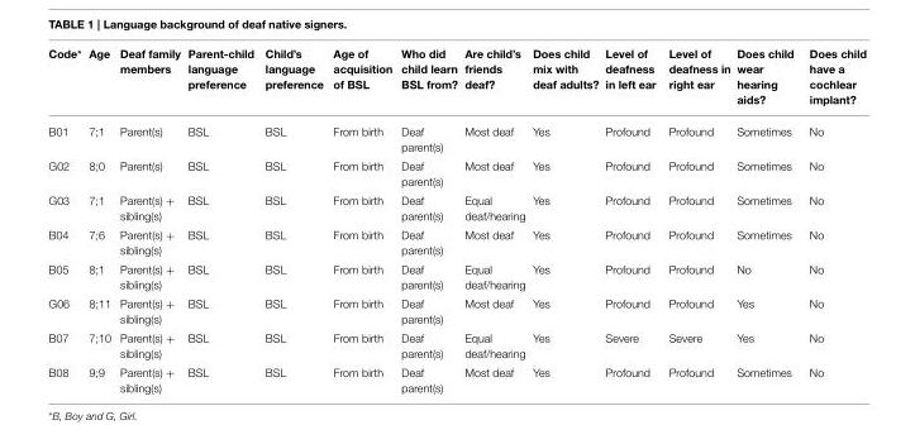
<table><thead><tr><td>Code*</td><td>Age</td><td>Deaf family members</td><td>Parent-child language preference</td><td>Child’s language preference</td><td>Age of acquisition of BSL</td><td>Who did child learn BSL from?</td><td>Are child’s friends deaf?</td><td>Does child mix with deaf adults?</td><td>Level of deafness in left ear</td><td>Level of deafness in right ear</td><td>Does child wear hearing aids?</td><td>Does child have a cochlear implant?</td></tr></thead><tbody><tr><td>B01</td><td>7;1</td><td>Parent(s)</td><td>BSL</td><td>BSL</td><td>From birth</td><td>Deaf parent(s)</td><td>Most deaf</td><td>Yes</td><td>Profound</td><td>Profound</td><td>Sometimes</td><td>No</td></tr><tr><td>G02</td><td>8;0</td><td>Parent(s)</td><td>BSL</td><td>BSL</td><td>From birth</td><td>Deaf parent(s)</td><td>Most deaf</td><td>Yes</td><td>Profound</td><td>Profound</td><td>Sometimes</td><td>No</td></tr><tr><td>G03</td><td>7;1</td><td>Parent(s) + sibling(s)</td><td>BSL</td><td>BSL</td><td>From birth</td><td>Deaf parent(s)</td><td>Equal deaf/hearing</td><td>Yes</td><td>Profound</td><td>Profound</td><td>Sometimes</td><td>No</td></tr><tr><td>B04</td><td>7;6</td><td>Parent(s) + sibling(s)</td><td>BSL</td><td>BSL</td><td>From birth</td><td>Deaf parent(s)</td><td>Most deaf</td><td>Yes</td><td>Profound</td><td>Profound</td><td>Sometimes</td><td>No</td></tr><tr><td>B05</td><td>8;1</td><td>Parent(s) + sibling(s)</td><td>BSL</td><td>BSL</td><td>From birth</td><td>Deaf parent(s)</td><td>Equal deaf/hearing</td><td>Yes</td><td>Profound</td><td>Profound</td><td>No</td><td>No</td></tr><tr><td>G06</td><td>8;11</td><td>Parent(s) + sibling(s)</td><td>BSL</td><td>BSL</td><td>From birth</td><td>Deaf parent(s)</td><td>Most deaf</td><td>Yes</td><td>Profound</td><td>Profound</td><td>Yes</td><td>No</td></tr><tr><td>B07</td><td>7;10</td><td>Parent(s) + sibling(s)</td><td>BSL</td><td>BSL</td><td>From birth</td><td>Deaf parent(s)</td><td>Equal deaf/hearing</td><td>Yes</td><td>Severe</td><td>Severe</td><td>Yes</td><td>No</td></tr><tr><td>B08</td><td>9;9</td><td>Parent(s) + sibling(s)</td><td>BSL</td><td>BSL</td><td>From birth</td><td>Deaf parent(s)</td><td>Most deaf</td><td>Yes</td><td>Profound</td><td>Profound</td><td>Sometimes</td><td>No</td></tr></tbody></table>